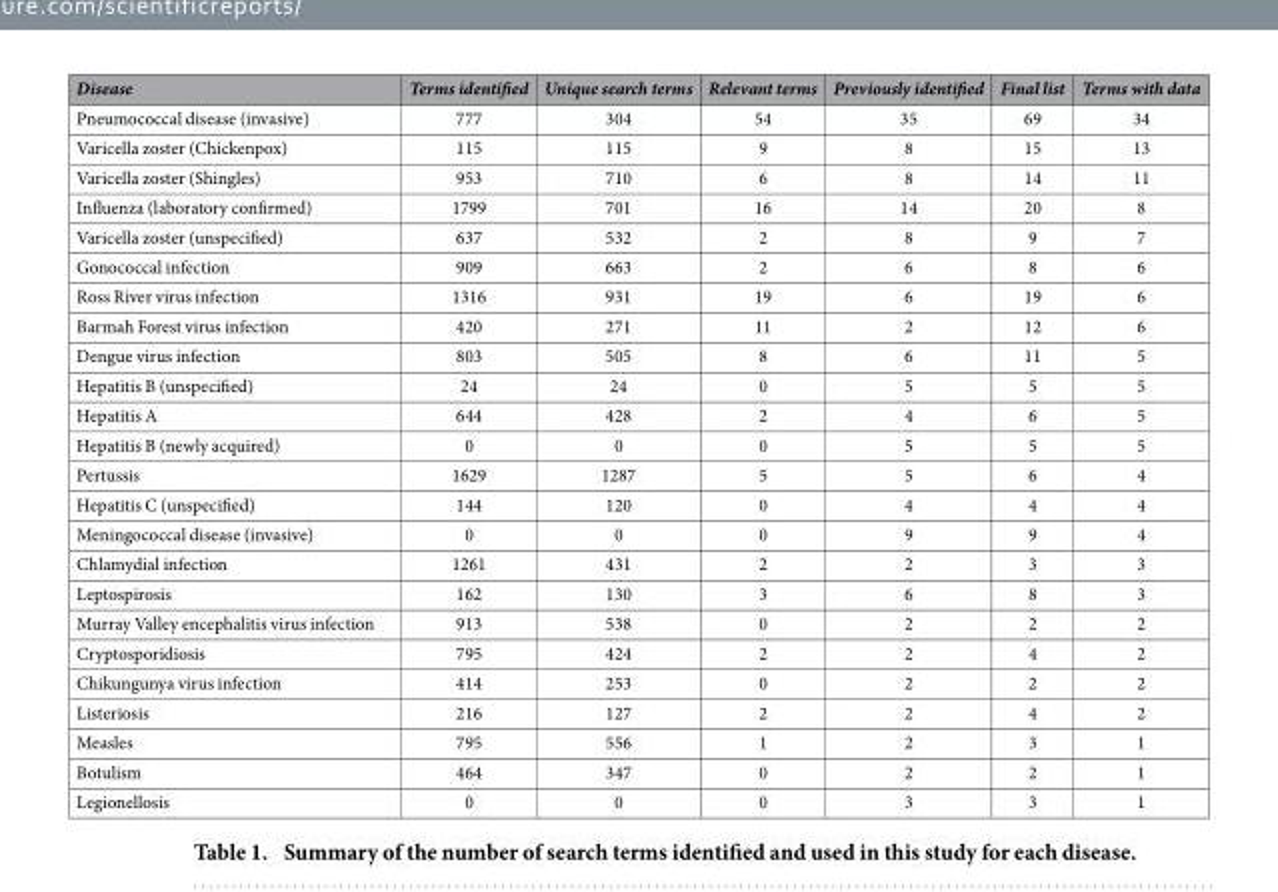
<table><thead><tr><td>Disease</td><td>Terms identified</td><td>Unique search terms</td><td>Relevant terms</td><td>Previously identified</td><td>Final list</td><td>Terms with data</td></tr></thead><tbody><tr><td>Pneumococcal disease (invasive)</td><td>777</td><td>304</td><td>54</td><td>35</td><td>69</td><td>34</td></tr><tr><td>Varicella zoster (Chickenpox)</td><td>115</td><td>115</td><td>9</td><td>8</td><td>15</td><td>13</td></tr><tr><td>Varicella zoster (Shingles)</td><td>953</td><td>710</td><td>6</td><td>8</td><td>14</td><td>11</td></tr><tr><td>Influenza (laboratory confirmed)</td><td>1799</td><td>701</td><td>16</td><td>14</td><td>20</td><td>8</td></tr><tr><td>Varicella zoster (unspecified)</td><td>637</td><td>532</td><td>2</td><td>8</td><td>9</td><td>7</td></tr><tr><td>Gonococcal infection</td><td>909</td><td>663</td><td>2</td><td>6</td><td>8</td><td>6</td></tr><tr><td>Ross River virus infection</td><td>1316</td><td>931</td><td>19</td><td>6</td><td>19</td><td>6</td></tr><tr><td>Barmah Forest virus infection</td><td>420</td><td>271</td><td>11</td><td>2</td><td>12</td><td>6</td></tr><tr><td>Dengue virus infection</td><td>803</td><td>505</td><td>8</td><td>6</td><td>11</td><td>5</td></tr><tr><td>Hepatitis B (unspecified)</td><td>24</td><td>24</td><td>0</td><td>5</td><td>5</td><td>5</td></tr><tr><td>Hepatitis A</td><td>644</td><td>428</td><td>2</td><td>4</td><td>6</td><td>5</td></tr><tr><td>Hepatitis B (newly acquired)</td><td>0</td><td>0</td><td>0</td><td>5</td><td>5</td><td>5</td></tr><tr><td>Pertussis</td><td>1629</td><td>1287</td><td>5</td><td>5</td><td>6</td><td>4</td></tr><tr><td>Hepatitis C (unspecified)</td><td>144</td><td>120</td><td>0</td><td>4</td><td>4</td><td>4</td></tr><tr><td>Meningococcal disease (invasive)</td><td>0</td><td>0</td><td>0</td><td>9</td><td>9</td><td>4</td></tr><tr><td>Chlamydial infection</td><td>1261</td><td>431</td><td>2</td><td>2</td><td>3</td><td>3</td></tr><tr><td>Leptospirosis</td><td>162</td><td>130</td><td>3</td><td>6</td><td>8</td><td>3</td></tr><tr><td>Murray Valley encephalitis virus infection</td><td>913</td><td>538</td><td>0</td><td>2</td><td>2</td><td>2</td></tr><tr><td>Cryptosporidiosis</td><td>795</td><td>424</td><td>2</td><td>2</td><td>4</td><td>2</td></tr><tr><td>Chikungunya virus infection</td><td>414</td><td>253</td><td>0</td><td>2</td><td>2</td><td>2</td></tr><tr><td>Listeriosis</td><td>216</td><td>127</td><td>2</td><td>2</td><td>4</td><td>2</td></tr><tr><td>Measles</td><td>795</td><td>556</td><td>1</td><td>2</td><td>3</td><td>1</td></tr><tr><td>Botulism</td><td>464</td><td>347</td><td>0</td><td>2</td><td>2</td><td>1</td></tr><tr><td>Legionellosis</td><td>0</td><td>0</td><td>0</td><td>3</td><td>3</td><td>1</td></tr></tbody></table>